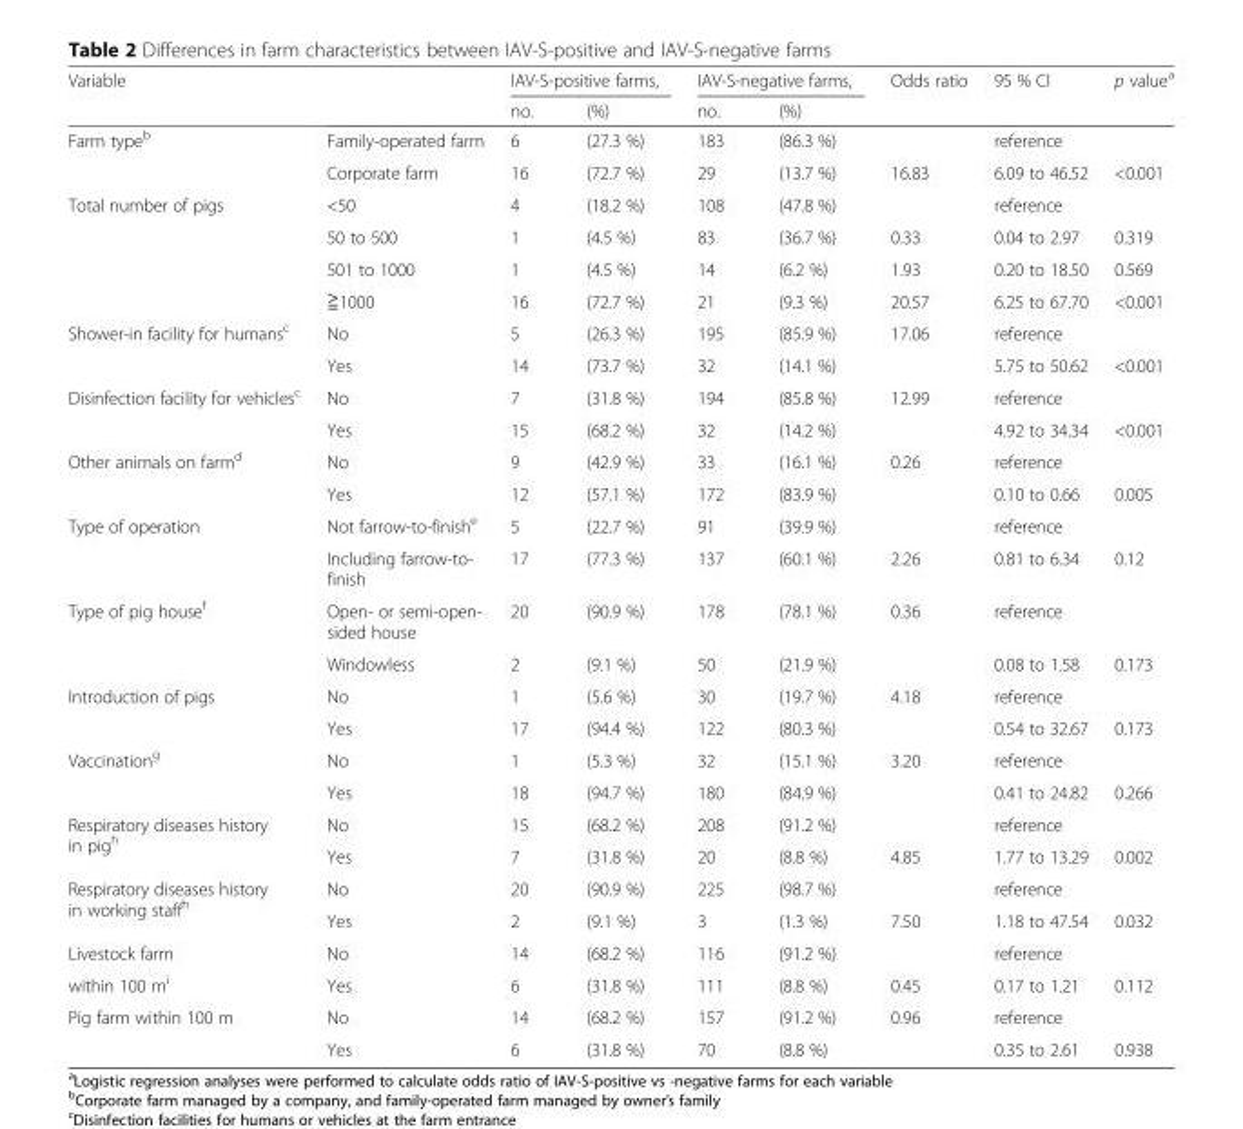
<table><thead><tr><td rowspan="2">Variable</td><td rowspan="2"></td><td colspan="2">IAV-S-positive farms,</td><td colspan="2">IAV-S-negative farms,</td><td rowspan="2">Odds ratio</td><td rowspan="2">95 % CI</td><td rowspan="2">p value<sup>a</sup></td></tr><tr><td>no.</td><td>(%)</td><td>no.</td><td>(%)</td></tr></thead><tbody><tr><td rowspan="2">Farm type<sup>b</sup></td><td>Family-operated farm</td><td>6</td><td>(27.3 %)</td><td>183</td><td>(86.3 %)</td><td></td><td>reference</td><td></td></tr><tr><td>Corporate farm</td><td>16</td><td>(72.7 %)</td><td>29</td><td>(13.7 %)</td><td>16.83</td><td>6.09 to 46.52</td><td>&lt;0.001</td></tr><tr><td rowspan="4">Total number of pigs</td><td>&lt;50</td><td>4</td><td>(18.2 %)</td><td>108</td><td>(47.8 %)</td><td></td><td>reference</td><td></td></tr><tr><td>50 to 500</td><td>1</td><td>(4.5 %)</td><td>83</td><td>(36.7 %)</td><td>0.33</td><td>0.04 to 2.97</td><td>0.319</td></tr><tr><td>501 to 1000</td><td>1</td><td>(4.5 %)</td><td>14</td><td>(6.2 %)</td><td>1.93</td><td>0.20 to 18.50</td><td>0.569</td></tr><tr><td>≧1000</td><td>16</td><td>(72.7 %)</td><td>21</td><td>(9.3 %)</td><td>20.57</td><td>6.25 to 67.70</td><td>&lt;0.001</td></tr><tr><td rowspan="2">Shower-in facility for humans<sup>c</sup></td><td>No</td><td>5</td><td>(26.3 %)</td><td>195</td><td>(85.9 %)</td><td>17.06</td><td>reference</td><td></td></tr><tr><td>Yes</td><td>14</td><td>(73.7 %)</td><td>32</td><td>(14.1 %)</td><td></td><td>5.75 to 50.62</td><td>&lt;0.001</td></tr><tr><td rowspan="2">Disinfection facility for vehicles<sup>c</sup></td><td>No</td><td>7</td><td>(31.8 %)</td><td>194</td><td>(85.8 %)</td><td>12.99</td><td>reference</td><td></td></tr><tr><td>Yes</td><td>15</td><td>(68.2 %)</td><td>32</td><td>(14.2 %)</td><td></td><td>4.92 to 34.34</td><td>&lt;0.001</td></tr><tr><td rowspan="2">Other animals on farm<sup>d</sup></td><td>No</td><td>9</td><td>(42.9 %)</td><td>33</td><td>(16.1 %)</td><td>0.26</td><td>reference</td><td></td></tr><tr><td>Yes</td><td>12</td><td>(57.1 %)</td><td>172</td><td>(83.9 %)</td><td></td><td>0.10 to 0.66</td><td>0.005</td></tr><tr><td rowspan="2">Type of operation</td><td>Not farrow-to-finish<sup>e</sup></td><td>5</td><td>(22.7 %)</td><td>91</td><td>(39.9 %)</td><td></td><td>reference</td><td></td></tr><tr><td>Including farrow-to- finish</td><td>17</td><td>(77.3 %)</td><td>137</td><td>(60.1 %)</td><td>2.26</td><td>0.81 to 6.34</td><td>0.12</td></tr><tr><td rowspan="2">Type of pig house<sup>f</sup></td><td>Open- or semi-open- sided house</td><td>20</td><td>(90.9 %)</td><td>178</td><td>(78.1 %)</td><td>0.36</td><td>reference</td><td></td></tr><tr><td>Windowless</td><td>2</td><td>(9.1 %)</td><td>50</td><td>(21.9 %)</td><td></td><td>0.08 to 1.58</td><td>0.173</td></tr><tr><td rowspan="2">Introduction of pigs</td><td>No</td><td>1</td><td>(5.6 %)</td><td>30</td><td>(19.7 %)</td><td>4.18</td><td>reference</td><td></td></tr><tr><td>Yes</td><td>17</td><td>(94.4 %)</td><td>122</td><td>(80.3 %)</td><td></td><td>0.54 to 32.67</td><td>0.173</td></tr><tr><td rowspan="2">Vaccination<sup>g</sup></td><td>No</td><td>1</td><td>(5.3 %)</td><td>32</td><td>(15.1 %)</td><td>3.20</td><td>reference</td><td></td></tr><tr><td>Yes</td><td>18</td><td>(94.7 %)</td><td>180</td><td>(84.9 %)</td><td></td><td>0.41 to 24.82</td><td>0.266</td></tr><tr><td rowspan="2">Respiratory diseases history in pig<sup>h</sup></td><td>No</td><td>15</td><td>(68.2 %)</td><td>208</td><td>(91.2 %)</td><td></td><td>reference</td><td></td></tr><tr><td>Yes</td><td>7</td><td>(31.8 %)</td><td>20</td><td>(8.8 %)</td><td>4.85</td><td>1.77 to 13.29</td><td>0.002</td></tr><tr><td rowspan="2">Respiratory diseases history in working staff<sup>h</sup></td><td>No</td><td>20</td><td>(90.9 %)</td><td>225</td><td>(98.7 %)</td><td></td><td>reference</td><td></td></tr><tr><td>Yes</td><td>2</td><td>(9.1 %)</td><td>3</td><td>(1.3 %)</td><td>7.50</td><td>1.18 to 47.54</td><td>0.032</td></tr><tr><td>Livestock farm</td><td>No</td><td>14</td><td>(68.2 %)</td><td>116</td><td>(91.2 %)</td><td></td><td>reference</td><td></td></tr><tr><td>within 100 m<sup>i</sup></td><td>Yes</td><td>6</td><td>(31.8 %)</td><td>111</td><td>(8.8 %)</td><td>0.45</td><td>0.17 to 1.21</td><td>0.112</td></tr><tr><td rowspan="2">Pig farm within 100 m</td><td>No</td><td>14</td><td>(68.2 %)</td><td>157</td><td>(91.2 %)</td><td>0.96</td><td>reference</td><td></td></tr><tr><td>Yes</td><td>6</td><td>(31.8 %)</td><td>70</td><td>(8.8 %)</td><td></td><td>0.35 to 2.61</td><td>0.938</td></tr></tbody></table>